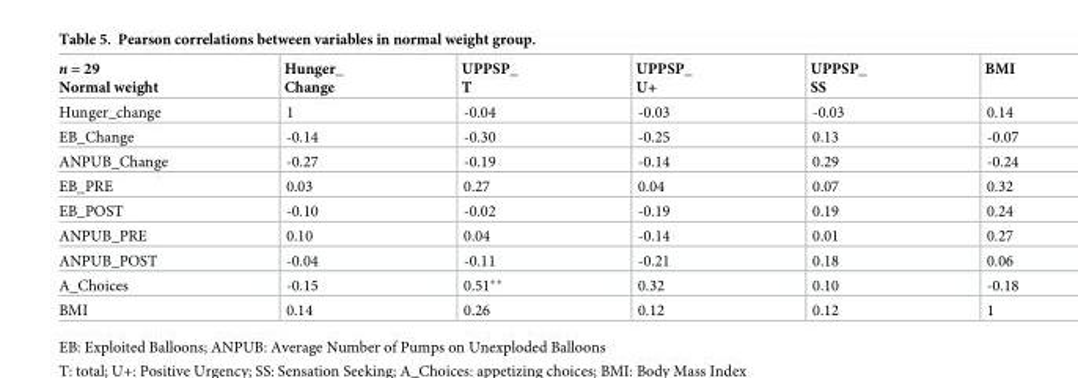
<table><thead><tr><td>n = 29 Normal weight</td><td>Hunger_ Change</td><td>UPPSP_ T</td><td>UPPSP_ U+</td><td>UPPSP_ SS</td><td>BMI</td></tr></thead><tbody><tr><td>Hunger_change</td><td>1</td><td>-0.04</td><td>-0.03</td><td>-0.03</td><td>0.14</td></tr><tr><td>EB_Change</td><td>-0.14</td><td>-0.30</td><td>-0.25</td><td>0.13</td><td>-0.07</td></tr><tr><td>ANPUB_Change</td><td>-0.27</td><td>-0.19</td><td>-0.14</td><td>0.29</td><td>-0.24</td></tr><tr><td>EB_PRE</td><td>0.03</td><td>0.27</td><td>0.04</td><td>0.07</td><td>0.32</td></tr><tr><td>EB_POST</td><td>-0.10</td><td>-0.02</td><td>-0.19</td><td>0.19</td><td>0.24</td></tr><tr><td>ANPUB_PRE</td><td>0.10</td><td>0.04</td><td>-0.14</td><td>0.01</td><td>0.27</td></tr><tr><td>ANPUB_POST</td><td>-0.04</td><td>-0.11</td><td>-0.21</td><td>0.18</td><td>0.06</td></tr><tr><td>A_Choices</td><td>-0.15</td><td>0.51**</td><td>0.32</td><td>0.10</td><td>-0.18</td></tr><tr><td>BMI</td><td>0.14</td><td>0.26</td><td>0.12</td><td>0.12</td><td>1</td></tr></tbody></table>